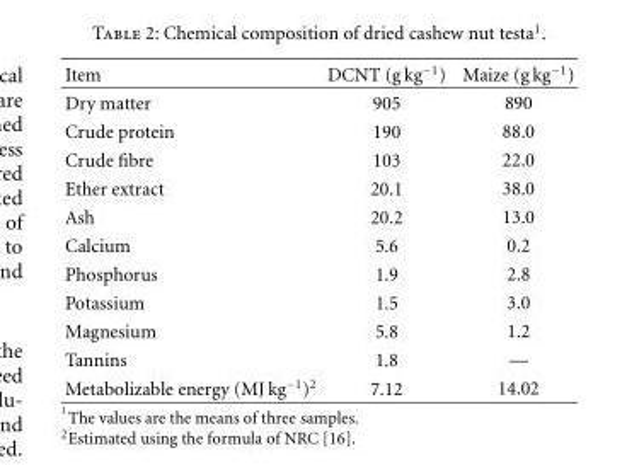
<table><thead><tr><td>Item</td><td>DCNT (g kg<sup>−1</sup>)</td><td>Maize (g kg<sup>−1</sup>)</td></tr></thead><tbody><tr><td>Dry matter</td><td>905</td><td>890</td></tr><tr><td>Crude protein</td><td>190</td><td>88.0</td></tr><tr><td>Crude fibre</td><td>103</td><td>22.0</td></tr><tr><td>Ether extract</td><td>20.1</td><td>38.0</td></tr><tr><td>Ash</td><td>20.2</td><td>13.0</td></tr><tr><td>Calcium</td><td>5.6</td><td>0.2</td></tr><tr><td>Phosphorus</td><td>1.9</td><td>2.8</td></tr><tr><td>Potassium</td><td>1.5</td><td>3.0</td></tr><tr><td>Magnesium</td><td>5.8</td><td>1.2</td></tr><tr><td>Tannins</td><td>1.8</td><td>—</td></tr><tr><td>Metabolizable energy (MJ kg<sup>−1</sup>)<sup>2</sup></td><td>7.12</td><td>14.02</td></tr></tbody></table>